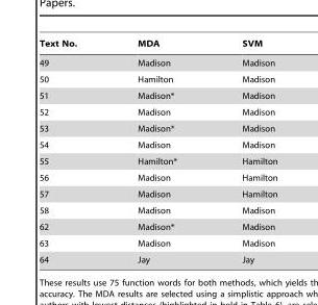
<table><thead><tr><td>Text No.</td><td>MDA</td><td>SVM</td></tr></thead><tbody><tr><td>49</td><td>Madison</td><td>Madison</td></tr><tr><td>50</td><td>Hamilton</td><td>Madison</td></tr><tr><td>51</td><td>Madison*</td><td>Madison</td></tr><tr><td>52</td><td>Madison</td><td>Madison</td></tr><tr><td>53</td><td>Madison*</td><td>Madison</td></tr><tr><td>54</td><td>Madison</td><td>Madison</td></tr><tr><td>55</td><td>Hamilton*</td><td>Hamilton</td></tr><tr><td>56</td><td>Madison</td><td>Hamilton</td></tr><tr><td>57</td><td>Madison</td><td>Hamilton</td></tr><tr><td>58</td><td>Madison</td><td>Madison</td></tr><tr><td>62</td><td>Madison*</td><td>Madison</td></tr><tr><td>63</td><td>Madison</td><td>Madison</td></tr><tr><td>64</td><td>Jay</td><td>Jay</td></tr></tbody></table>